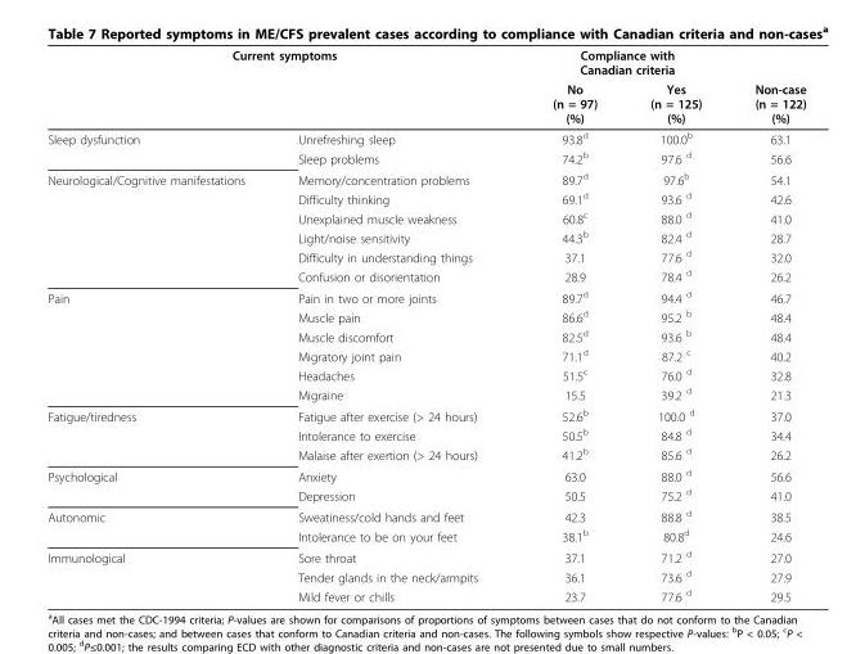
<table><thead><tr><td colspan="2">Current symptoms</td><td colspan="2">Compliance with Canadian criteria</td><td rowspan="2">Non-case (n = 122) (%)</td></tr><tr><td></td><td></td><td>No (n = 97) (%)</td><td>Yes (n = 125) (%)</td></tr></thead><tbody><tr><td rowspan="2">Sleep dysfunction</td><td>Unrefreshing sleep</td><td>93.8<sup>d</sup></td><td>100.0<sup>b</sup></td><td>63.1</td></tr><tr><td>Sleep problems</td><td>74.2<sup>b</sup></td><td>97.6 <sup>d</sup></td><td>56.6</td></tr><tr><td rowspan="6">Neurological/Cognitive manifestations</td><td>Memory/concentration problems</td><td>89.7<sup>d</sup></td><td>97.6<sup>b</sup></td><td>54.1</td></tr><tr><td>Difficulty thinking</td><td>69.1<sup>d</sup></td><td>93.6 <sup>d</sup></td><td>42.6</td></tr><tr><td>Unexplained muscle weakness</td><td>60.8<sup>c</sup></td><td>88.0 <sup>d</sup></td><td>41.0</td></tr><tr><td>Light/noise sensitivity</td><td>44.3<sup>b</sup></td><td>82.4 <sup>d</sup></td><td>28.7</td></tr><tr><td>Difficulty in understanding things</td><td>37.1</td><td>77.6 <sup>d</sup></td><td>32.0</td></tr><tr><td>Confusion or disorientation</td><td>28.9</td><td>78.4 <sup>d</sup></td><td>26.2</td></tr><tr><td rowspan="6">Pain</td><td>Pain in two or more joints</td><td>89.7<sup>d</sup></td><td>94.4 <sup>d</sup></td><td>46.7</td></tr><tr><td>Muscle pain</td><td>86.6<sup>d</sup></td><td>95.2 <sup>b</sup></td><td>48.4</td></tr><tr><td>Muscle discomfort</td><td>82.5<sup>d</sup></td><td>93.6 <sup>b</sup></td><td>48.4</td></tr><tr><td>Migratory joint pain</td><td>71.1<sup>d</sup></td><td>87.2 <sup>c</sup></td><td>40.2</td></tr><tr><td>Headaches</td><td>51.5<sup>c</sup></td><td>76.0 <sup>d</sup></td><td>32.8</td></tr><tr><td>Migraine</td><td>15.5</td><td>39.2 <sup>d</sup></td><td>21.3</td></tr><tr><td rowspan="3">Fatigue/tiredness</td><td>Fatigue after exercise (&gt; 24 hours)</td><td>52.6<sup>b</sup></td><td>100.0 <sup>d</sup></td><td>37.0</td></tr><tr><td>Intolerance to exercise</td><td>50.5<sup>b</sup></td><td>84.8 <sup>d</sup></td><td>34.4</td></tr><tr><td>Malaise after exertion (&gt; 24 hours)</td><td>41.2<sup>b</sup></td><td>85.6 <sup>d</sup></td><td>26.2</td></tr><tr><td rowspan="2">Psychological</td><td>Anxiety</td><td>63.0</td><td>88.0 <sup>d</sup></td><td>56.6</td></tr><tr><td>Depression</td><td>50.5</td><td>75.2 <sup>d</sup></td><td>41.0</td></tr><tr><td rowspan="2">Autonomic</td><td>Sweatiness/cold hands and feet</td><td>42.3</td><td>88.8 <sup>d</sup></td><td>38.5</td></tr><tr><td>Intolerance to be on your feet</td><td>38.1<sup>b</sup></td><td>80.8<sup>d</sup></td><td>24.6</td></tr><tr><td rowspan="3">Immunological</td><td>Sore throat</td><td>37.1</td><td>71.2 <sup>d</sup></td><td>27.0</td></tr><tr><td>Tender glands in the neck/armpits</td><td>36.1</td><td>73.6 <sup>d</sup></td><td>27.9</td></tr><tr><td>Mild fever or chills</td><td>23.7</td><td>77.6 <sup>d</sup></td><td>29.5</td></tr></tbody></table>